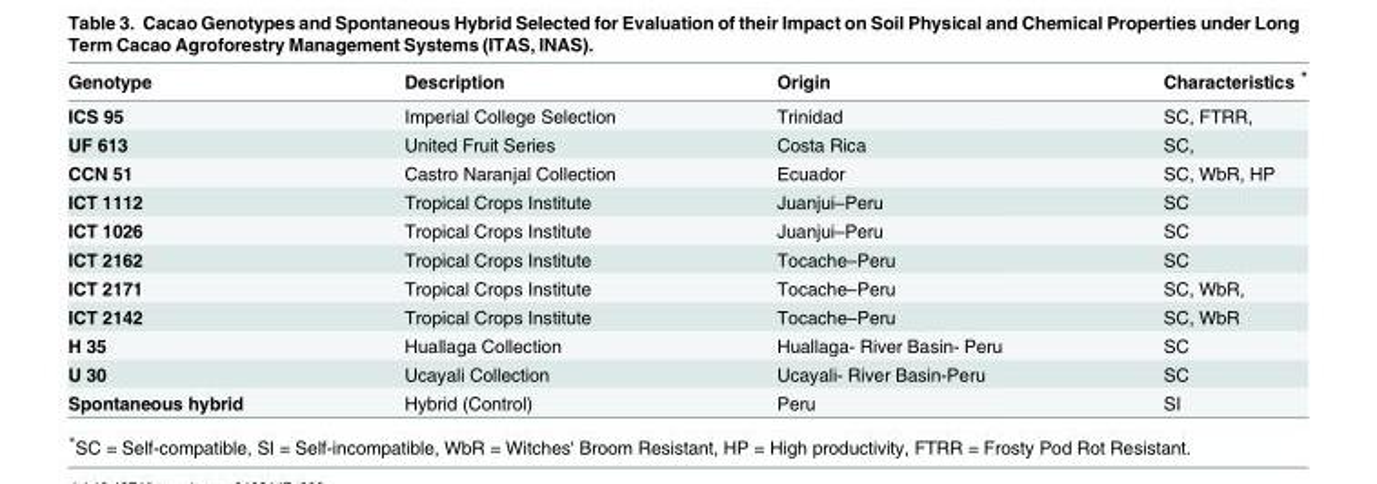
<table><thead><tr><td>Genotype</td><td>Description</td><td>Origin</td><td>Characteristics *</td></tr></thead><tbody><tr><td>ICS 95</td><td>Imperial College Selection</td><td>Trinidad</td><td>SC, FTRR,</td></tr><tr><td>UF 613</td><td>United Fruit Series</td><td>Costa Rica</td><td>SC,</td></tr><tr><td>CCN 51</td><td>Castro Naranjal Collection</td><td>Ecuador</td><td>SC, WbR, HP</td></tr><tr><td>ICT 1112</td><td>Tropical Crops Institute</td><td>Juanjui–Peru</td><td>SC</td></tr><tr><td>ICT 1026</td><td>Tropical Crops Institute</td><td>Juanjui–Peru</td><td>SC</td></tr><tr><td>ICT 2162</td><td>Tropical Crops Institute</td><td>Tocache–Peru</td><td>SC</td></tr><tr><td>ICT 2171</td><td>Tropical Crops Institute</td><td>Tocache–Peru</td><td>SC, WbR,</td></tr><tr><td>ICT 2142</td><td>Tropical Crops Institute</td><td>Tocache–Peru</td><td>SC, WbR</td></tr><tr><td>H 35</td><td>Huallaga Collection</td><td>Huallaga- River Basin- Peru</td><td>SC</td></tr><tr><td>U 30</td><td>Ucayali Collection</td><td>Ucayali- River Basin-Peru</td><td>SC</td></tr><tr><td>Spontaneous hybrid</td><td>Hybrid (Control)</td><td>Peru</td><td>SI</td></tr></tbody></table>